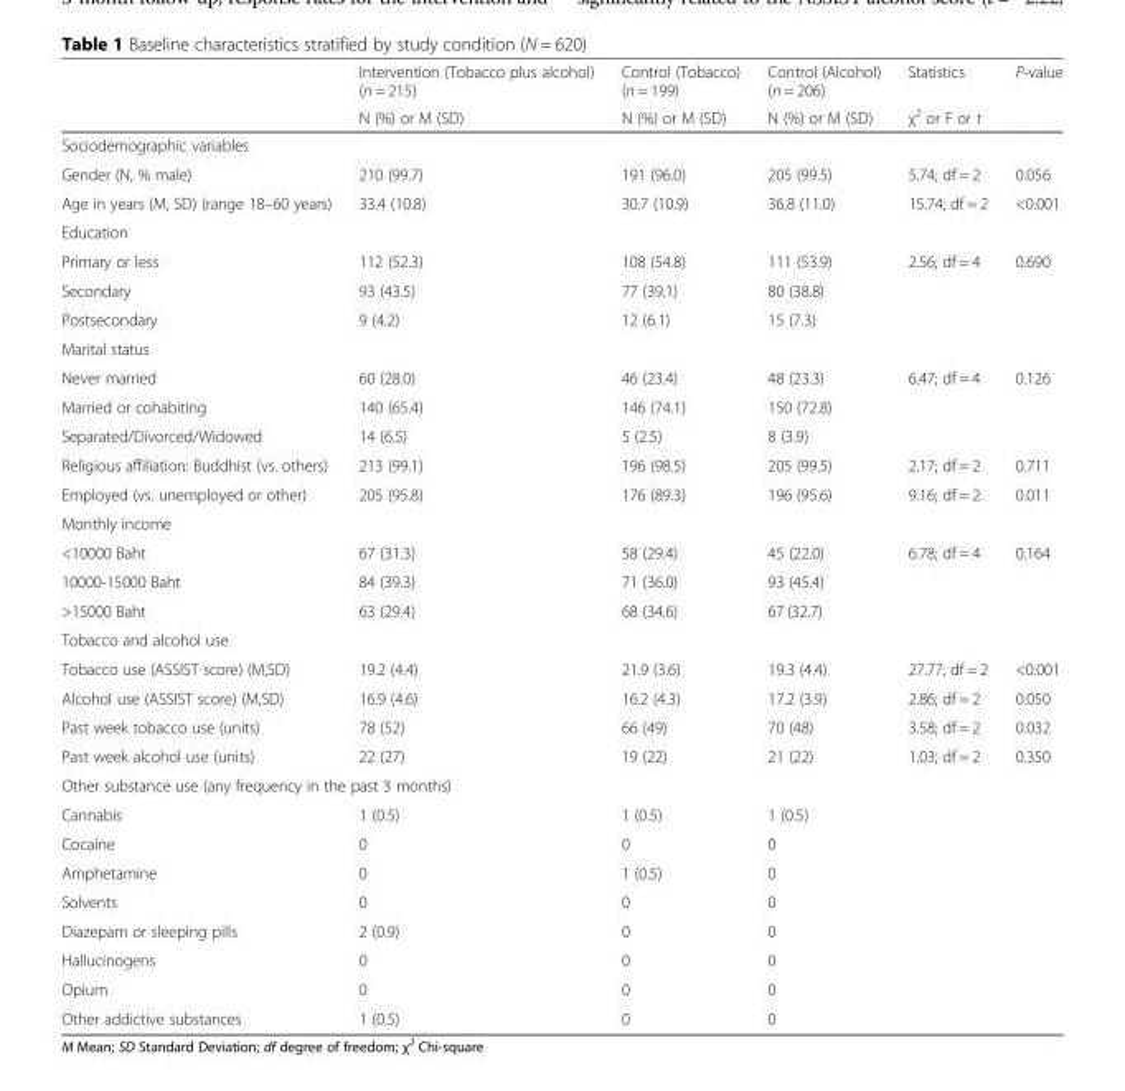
<table><thead><tr><td rowspan="2"></td><td rowspan="2">Intervention (Tobacco plus alcohol) (n = 215) N (%) or M (SD)</td><td rowspan="2">Control (Tobacco) (n = 199) N (%) or M (SD)</td><td rowspan="2">Control (Alcohol) (n = 206) N (%) or M (SD)</td><td rowspan="2">Statistics χ<sup>2</sup> or F or t</td><td rowspan="2">P-value</td></tr><tr></tr></thead><tbody><tr><td colspan="6">Sociodemographic variables</td></tr><tr><td>Gender (N, % male)</td><td>210 (99.7)</td><td>191 (96.0)</td><td>205 (99.5)</td><td>5.74; df = 2</td><td>0.056</td></tr><tr><td>Age in years (M, SD) (range 18–60 years)</td><td>33.4 (10.8)</td><td>30.7 (10.9)</td><td>36.8 (11.0)</td><td>15.74; df = 2</td><td>&lt;0.001</td></tr><tr><td colspan="6">Education</td></tr><tr><td>Primary or less</td><td>112 (52.3)</td><td>108 (54.8)</td><td>111 (53.9)</td><td rowspan="3">2.56; df = 4</td><td rowspan="3">0.690</td></tr><tr><td>Secondary</td><td>93 (43.5)</td><td>77 (39.1)</td><td>80 (38.8)</td></tr><tr><td>Postsecondary</td><td>9 (4.2)</td><td>12 (6.1)</td><td>15 (7.3)</td></tr><tr><td colspan="6">Marital status</td></tr><tr><td>Never married</td><td>60 (28.0)</td><td>46 (23.4)</td><td>48 (23.3)</td><td rowspan="3">6.47; df = 4</td><td rowspan="3">0.126</td></tr><tr><td>Married or cohabiting</td><td>140 (65.4)</td><td>146 (74.1)</td><td>150 (72.8)</td></tr><tr><td>Separated/Divorced/Widowed</td><td>14 (6.5)</td><td>5 (2.5)</td><td>8 (3.9)</td></tr><tr><td>Religious affiliation: Buddhist (vs. others)</td><td>213 (99.1)</td><td>196 (98.5)</td><td>205 (99.5)</td><td>2.17; df = 2</td><td>0.711</td></tr><tr><td>Employed (vs. unemployed or other)</td><td>205 (95.8)</td><td>176 (89.3)</td><td>196 (95.6)</td><td>9.16; df = 2</td><td>0.011</td></tr><tr><td colspan="6">Monthly income</td></tr><tr><td>&lt;10000 Baht</td><td>67 (31.3)</td><td>58 (29.4)</td><td>45 (22.0)</td><td rowspan="3">6.78; df = 4</td><td rowspan="3">0.164</td></tr><tr><td>10000-15000 Baht</td><td>84 (39.3)</td><td>71 (36.0)</td><td>93 (45.4)</td></tr><tr><td>&gt;15000 Baht</td><td>63 (29.4)</td><td>68 (34.6)</td><td>67 (32.7)</td></tr><tr><td colspan="6">Tobacco and alcohol use</td></tr><tr><td>Tobacco use (ASSIST score) (M,SD)</td><td>19.2 (4.4)</td><td>21.9 (3.6)</td><td>19.3 (4.4)</td><td>27.77; df = 2</td><td>&lt;0.001</td></tr><tr><td>Alcohol use (ASSIST score) (M,SD)</td><td>16.9 (4.6)</td><td>16.2 (4.3)</td><td>17.2 (3.9)</td><td>2.86; df = 2</td><td>0.050</td></tr><tr><td>Past week tobacco use (units)</td><td>78 (52)</td><td>66 (49)</td><td>70 (48)</td><td>3.58; df = 2</td><td>0.032</td></tr><tr><td>Past week alcohol use (units)</td><td>22 (27)</td><td>19 (22)</td><td>21 (22)</td><td>1.03; df = 2</td><td>0.350</td></tr><tr><td colspan="6">Other substance use (any frequency in the past 3 months)</td></tr><tr><td>Cannabis</td><td>1 (0.5)</td><td>1 (0.5)</td><td>1 (0.5)</td><td></td><td></td></tr><tr><td>Cocaine</td><td>0</td><td>0</td><td>0</td><td></td><td></td></tr><tr><td>Amphetamine</td><td>0</td><td>1 (0.5)</td><td>0</td><td></td><td></td></tr><tr><td>Solvents</td><td>0</td><td>0</td><td>0</td><td></td><td></td></tr><tr><td>Diazepam or sleeping pills</td><td>2 (0.9)</td><td>0</td><td>0</td><td></td><td></td></tr><tr><td>Hallucinogens</td><td>0</td><td>0</td><td>0</td><td></td><td></td></tr><tr><td>Opium</td><td>0</td><td>0</td><td>0</td><td></td><td></td></tr><tr><td>Other addictive substances</td><td>1 (0.5)</td><td>0</td><td>0</td><td></td><td></td></tr></tbody></table>